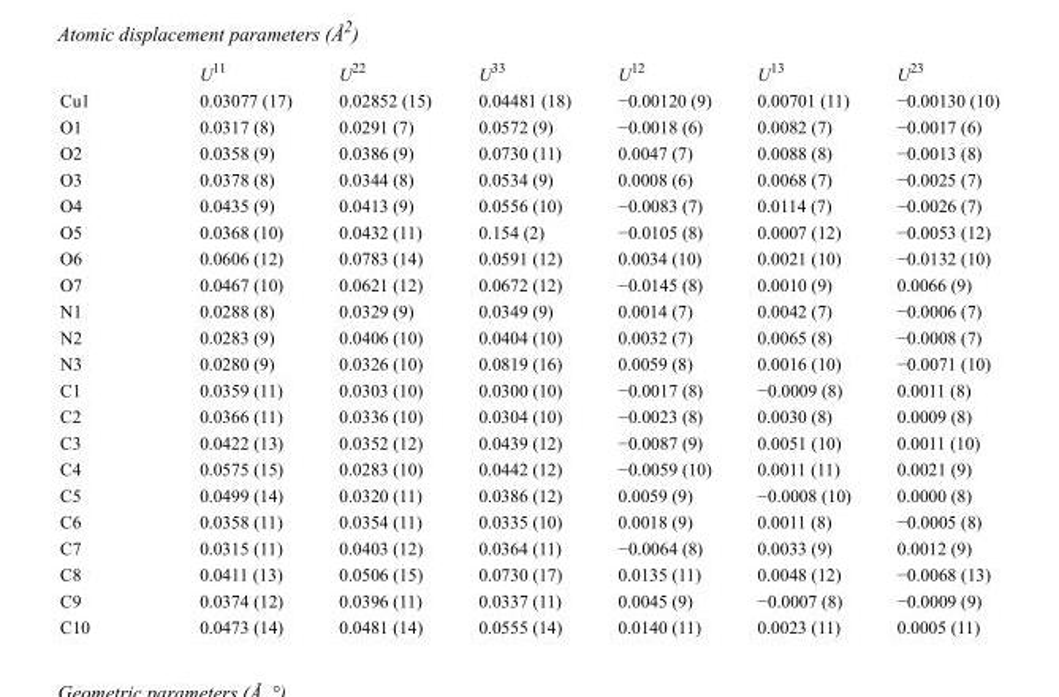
<table><thead><tr><td></td><td>U<sup>11</sup></td><td>U<sup>22</sup></td><td>U<sup>33</sup></td><td>U<sup>12</sup></td><td>U<sup>13</sup></td><td>U<sup>23</sup></td></tr></thead><tbody><tr><td>Cu1</td><td>0.03077 (17)</td><td>0.02852 (15)</td><td>0.04481 (18)</td><td>−0.00120 (9)</td><td>0.00701 (11)</td><td>−0.00130 (10)</td></tr><tr><td>O1</td><td>0.0317 (8)</td><td>0.0291 (7)</td><td>0.0572 (9)</td><td>−0.0018 (6)</td><td>0.0082 (7)</td><td>−0.0017 (6)</td></tr><tr><td>O2</td><td>0.0358 (9)</td><td>0.0386 (9)</td><td>0.0730 (11)</td><td>0.0047 (7)</td><td>0.0088 (8)</td><td>−0.0013 (8)</td></tr><tr><td>O3</td><td>0.0378 (8)</td><td>0.0344 (8)</td><td>0.0534 (9)</td><td>0.0008 (6)</td><td>0.0068 (7)</td><td>−0.0025 (7)</td></tr><tr><td>O4</td><td>0.0435 (9)</td><td>0.0413 (9)</td><td>0.0556 (10)</td><td>−0.0083 (7)</td><td>0.0114 (7)</td><td>−0.0026 (7)</td></tr><tr><td>O5</td><td>0.0368 (10)</td><td>0.0432 (11)</td><td>0.154 (2)</td><td>−0.0105 (8)</td><td>0.0007 (12)</td><td>−0.0053 (12)</td></tr><tr><td>O6</td><td>0.0606 (12)</td><td>0.0783 (14)</td><td>0.0591 (12)</td><td>0.0034 (10)</td><td>0.0021 (10)</td><td>−0.0132 (10)</td></tr><tr><td>O7</td><td>0.0467 (10)</td><td>0.0621 (12)</td><td>0.0672 (12)</td><td>−0.0145 (8)</td><td>0.0010 (9)</td><td>0.0066 (9)</td></tr><tr><td>N1</td><td>0.0288 (8)</td><td>0.0329 (9)</td><td>0.0349 (9)</td><td>0.0014 (7)</td><td>0.0042 (7)</td><td>−0.0006 (7)</td></tr><tr><td>N2</td><td>0.0283 (9)</td><td>0.0406 (10)</td><td>0.0404 (10)</td><td>0.0032 (7)</td><td>0.0065 (8)</td><td>−0.0008 (7)</td></tr><tr><td>N3</td><td>0.0280 (9)</td><td>0.0326 (10)</td><td>0.0819 (16)</td><td>0.0059 (8)</td><td>0.0016 (10)</td><td>−0.0071 (10)</td></tr><tr><td>C1</td><td>0.0359 (11)</td><td>0.0303 (10)</td><td>0.0300 (10)</td><td>−0.0017 (8)</td><td>−0.0009 (8)</td><td>0.0011 (8)</td></tr><tr><td>C2</td><td>0.0366 (11)</td><td>0.0336 (10)</td><td>0.0304 (10)</td><td>−0.0023 (8)</td><td>0.0030 (8)</td><td>0.0009 (8)</td></tr><tr><td>C3</td><td>0.0422 (13)</td><td>0.0352 (12)</td><td>0.0439 (12)</td><td>−0.0087 (9)</td><td>0.0051 (10)</td><td>0.0011 (10)</td></tr><tr><td>C4</td><td>0.0575 (15)</td><td>0.0283 (10)</td><td>0.0442 (12)</td><td>−0.0059 (10)</td><td>0.0011 (11)</td><td>0.0021 (9)</td></tr><tr><td>C5</td><td>0.0499 (14)</td><td>0.0320 (11)</td><td>0.0386 (12)</td><td>0.0059 (9)</td><td>−0.0008 (10)</td><td>0.0000 (8)</td></tr><tr><td>C6</td><td>0.0358 (11)</td><td>0.0354 (11)</td><td>0.0335 (10)</td><td>0.0018 (9)</td><td>0.0011 (8)</td><td>−0.0005 (8)</td></tr><tr><td>C7</td><td>0.0315 (11)</td><td>0.0403 (12)</td><td>0.0364 (11)</td><td>−0.0064 (8)</td><td>0.0033 (9)</td><td>0.0012 (9)</td></tr><tr><td>C8</td><td>0.0411 (13)</td><td>0.0506 (15)</td><td>0.0730 (17)</td><td>0.0135 (11)</td><td>0.0048 (12)</td><td>−0.0068 (13)</td></tr><tr><td>C9</td><td>0.0374 (12)</td><td>0.0396 (11)</td><td>0.0337 (11)</td><td>0.0045 (9)</td><td>−0.0007 (8)</td><td>−0.0009 (9)</td></tr><tr><td>C10</td><td>0.0473 (14)</td><td>0.0481 (14)</td><td>0.0555 (14)</td><td>0.0140 (11)</td><td>0.0023 (11)</td><td>0.0005 (11)</td></tr></tbody></table>